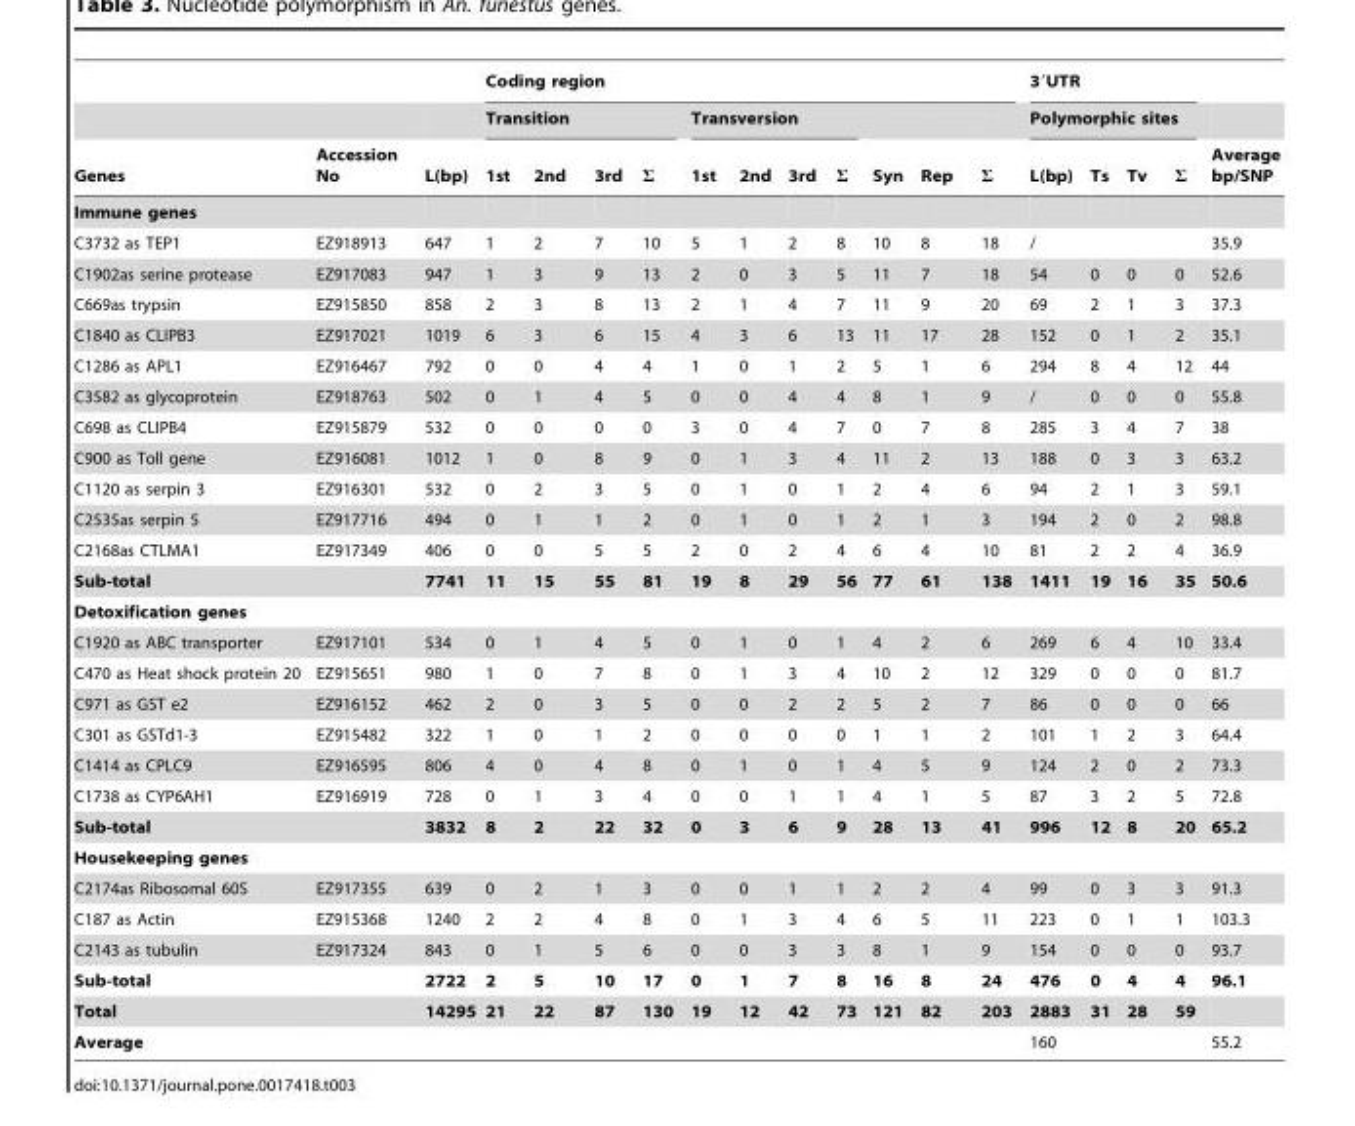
<table><thead><tr><td rowspan="3">Genes</td><td rowspan="3">Accession No</td><td rowspan="3">L(bp)</td><td colspan="11">Coding region</td><td rowspan="2" colspan="4">3′UTR Polymorphic sites</td><td rowspan="3">Average bp/SNP</td></tr><tr><td colspan="4">Transition</td><td colspan="4">Transversion</td><td rowspan="2">Syn</td><td rowspan="2">Rep</td><td rowspan="2">Σ</td></tr><tr><td>1st</td><td>2nd</td><td>3rd</td><td>Σ</td><td>1st</td><td>2nd</td><td>3rd</td><td>Σ</td><td>L(bp)</td><td>Ts</td><td>Tv</td><td>Σ</td></tr></thead><tbody><tr><td colspan="19">Immune genes</td></tr><tr><td>C3732 as TEP1</td><td>EZ918913</td><td>647</td><td>1</td><td>2</td><td>7</td><td>10</td><td>5</td><td>1</td><td>2</td><td>8</td><td>10</td><td>8</td><td>18</td><td>/</td><td></td><td></td><td></td><td>35.9</td></tr><tr><td>C1902as serine protease</td><td>EZ917083</td><td>947</td><td>1</td><td>3</td><td>9</td><td>13</td><td>2</td><td>0</td><td>3</td><td>5</td><td>11</td><td>7</td><td>18</td><td>54</td><td>0</td><td>0</td><td>0</td><td>52.6</td></tr><tr><td>C669as trypsin</td><td>EZ915850</td><td>858</td><td>2</td><td>3</td><td>8</td><td>13</td><td>2</td><td>1</td><td>4</td><td>7</td><td>11</td><td>9</td><td>20</td><td>69</td><td>2</td><td>1</td><td>3</td><td>37.3</td></tr><tr><td>C1840 as CLIPB3</td><td>EZ917021</td><td>1019</td><td>6</td><td>3</td><td>6</td><td>15</td><td>4</td><td>3</td><td>6</td><td>13</td><td>11</td><td>17</td><td>28</td><td>152</td><td>0</td><td>1</td><td>2</td><td>35.1</td></tr><tr><td>C1286 as APL1</td><td>EZ916467</td><td>792</td><td>0</td><td>0</td><td>4</td><td>4</td><td>1</td><td>0</td><td>1</td><td>2</td><td>5</td><td>1</td><td>6</td><td>294</td><td>8</td><td>4</td><td>12</td><td>44</td></tr><tr><td>C3582 as glycoprotein</td><td>EZ918763</td><td>502</td><td>0</td><td>1</td><td>4</td><td>5</td><td>0</td><td>0</td><td>4</td><td>4</td><td>8</td><td>1</td><td>9</td><td>/</td><td>0</td><td>0</td><td>0</td><td>55.8</td></tr><tr><td>C698 as CLIPB4</td><td>EZ915879</td><td>532</td><td>0</td><td>0</td><td>0</td><td>0</td><td>3</td><td>0</td><td>4</td><td>7</td><td>0</td><td>7</td><td>8</td><td>285</td><td>3</td><td>4</td><td>7</td><td>38</td></tr><tr><td>C900 as Toll gene</td><td>EZ916081</td><td>1012</td><td>1</td><td>0</td><td>8</td><td>9</td><td>0</td><td>1</td><td>3</td><td>4</td><td>11</td><td>2</td><td>13</td><td>188</td><td>0</td><td>3</td><td>3</td><td>63.2</td></tr><tr><td>C1120 as serpin 3</td><td>EZ916301</td><td>532</td><td>0</td><td>2</td><td>3</td><td>5</td><td>0</td><td>1</td><td>0</td><td>1</td><td>2</td><td>4</td><td>6</td><td>94</td><td>2</td><td>1</td><td>3</td><td>59.1</td></tr><tr><td>C2535as serpin 5</td><td>EZ917716</td><td>494</td><td>0</td><td>1</td><td>1</td><td>2</td><td>0</td><td>1</td><td>0</td><td>1</td><td>2</td><td>1</td><td>3</td><td>194</td><td>2</td><td>0</td><td>2</td><td>98.8</td></tr><tr><td>C2168as CTLMA1</td><td>EZ917349</td><td>406</td><td>0</td><td>0</td><td>5</td><td>5</td><td>2</td><td>0</td><td>2</td><td>4</td><td>6</td><td>4</td><td>10</td><td>81</td><td>2</td><td>2</td><td>4</td><td>36.9</td></tr><tr><td>Sub-total</td><td></td><td>7741</td><td>11</td><td>15</td><td>55</td><td>81</td><td>19</td><td>8</td><td>29</td><td>56</td><td>77</td><td>61</td><td>138</td><td>1411</td><td>19</td><td>16</td><td>35</td><td>50.6</td></tr><tr><td colspan="19">Detoxification genes</td></tr><tr><td>C1920 as ABC transporter</td><td>EZ917101</td><td>534</td><td>0</td><td>1</td><td>4</td><td>5</td><td>0</td><td>1</td><td>0</td><td>1</td><td>4</td><td>2</td><td>6</td><td>269</td><td>6</td><td>4</td><td>10</td><td>33.4</td></tr><tr><td>C470 as Heat shock protein 20</td><td>EZ915651</td><td>980</td><td>1</td><td>0</td><td>7</td><td>8</td><td>0</td><td>1</td><td>3</td><td>4</td><td>10</td><td>2</td><td>12</td><td>329</td><td>0</td><td>0</td><td>0</td><td>81.7</td></tr><tr><td>C971 as GST e2</td><td>EZ916152</td><td>462</td><td>2</td><td>0</td><td>3</td><td>5</td><td>0</td><td>0</td><td>2</td><td>2</td><td>5</td><td>2</td><td>7</td><td>86</td><td>0</td><td>0</td><td>0</td><td>66</td></tr><tr><td>C301 as GSTd1-3</td><td>EZ915482</td><td>322</td><td>1</td><td>0</td><td>1</td><td>2</td><td>0</td><td>0</td><td>0</td><td>0</td><td>1</td><td>1</td><td>2</td><td>101</td><td>1</td><td>2</td><td>3</td><td>64.4</td></tr><tr><td>C1414 as CPLC9</td><td>EZ916595</td><td>806</td><td>4</td><td>0</td><td>4</td><td>8</td><td>0</td><td>1</td><td>0</td><td>1</td><td>4</td><td>5</td><td>9</td><td>124</td><td>2</td><td>0</td><td>2</td><td>73.3</td></tr><tr><td>C1738 as CYP6AH1</td><td>EZ916919</td><td>728</td><td>0</td><td>1</td><td>3</td><td>4</td><td>0</td><td>0</td><td>1</td><td>1</td><td>4</td><td>1</td><td>5</td><td>87</td><td>3</td><td>2</td><td>5</td><td>72.8</td></tr><tr><td>Sub-total</td><td></td><td>3832</td><td>8</td><td>2</td><td>22</td><td>32</td><td>0</td><td>3</td><td>6</td><td>9</td><td>28</td><td>13</td><td>41</td><td>996</td><td>12</td><td>8</td><td>20</td><td>65.2</td></tr><tr><td colspan="19">Housekeeping genes</td></tr><tr><td>C2174as Ribosomal 60S</td><td>EZ917355</td><td>639</td><td>0</td><td>2</td><td>1</td><td>3</td><td>0</td><td>0</td><td>1</td><td>1</td><td>2</td><td>2</td><td>4</td><td>99</td><td>0</td><td>3</td><td>3</td><td>91.3</td></tr><tr><td>C187 as Actin</td><td>EZ915368</td><td>1240</td><td>2</td><td>2</td><td>4</td><td>8</td><td>0</td><td>1</td><td>3</td><td>4</td><td>6</td><td>5</td><td>11</td><td>223</td><td>0</td><td>1</td><td>1</td><td>103.3</td></tr><tr><td>C2143 as tubulin</td><td>EZ917324</td><td>843</td><td>0</td><td>1</td><td>5</td><td>6</td><td>0</td><td>0</td><td>3</td><td>3</td><td>8</td><td>1</td><td>9</td><td>154</td><td>0</td><td>0</td><td>0</td><td>93.7</td></tr><tr><td>Sub-total</td><td></td><td>2722</td><td>2</td><td>5</td><td>10</td><td>17</td><td>0</td><td>1</td><td>7</td><td>8</td><td>16</td><td>8</td><td>24</td><td>476</td><td>0</td><td>4</td><td>4</td><td>96.1</td></tr><tr><td>Total</td><td></td><td>14295</td><td>21</td><td>22</td><td>87</td><td>130</td><td>19</td><td>12</td><td>42</td><td>73</td><td>121</td><td>82</td><td>203</td><td>2883</td><td>31</td><td>28</td><td>59</td><td></td></tr><tr><td>Average</td><td></td><td></td><td></td><td></td><td></td><td></td><td></td><td></td><td></td><td></td><td></td><td></td><td></td><td>160</td><td></td><td></td><td></td><td>55.2</td></tr></tbody></table>